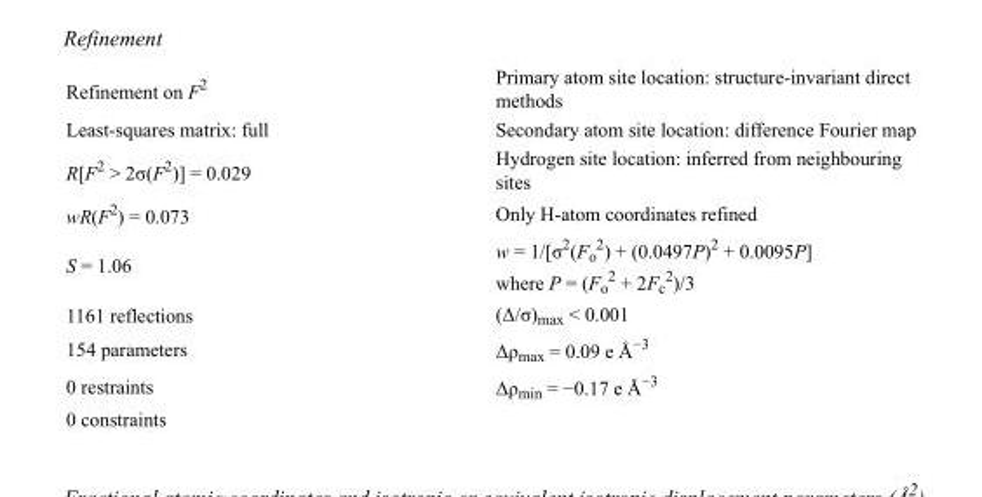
<table><tbody><tr><td>Refinement on F<sup>2</sup></td><td>Primary atom site location: structure-invariant direct methods</td></tr><tr><td>Least-squares matrix: full</td><td>Secondary atom site location: difference Fourier map</td></tr><tr><td>R[F<sup>2</sup> &gt; 2σ(F<sup>2</sup>)] = 0.029</td><td>Hydrogen site location: inferred from neighbouring sites</td></tr><tr><td>wR(F<sup>2</sup>) = 0.073</td><td>Only H-atom coordinates refined</td></tr><tr><td>S = 1.06</td><td>w = 1/[σ<sup>2</sup>(F<sub>o</sub> <sup>2</sup>) + (0.0497P)<sup>2</sup> + 0.0095P] where P = (F<sub>o</sub> <sup>2</sup> + 2F<sub>c</sub> <sup>2</sup>)/3</td></tr><tr><td>1161 reflections</td><td>(Δ/σ)<sub>max</sub> &lt; 0.001</td></tr><tr><td>154 parameters</td><td>Δρ<sub>max</sub> = 0.09 e Å<sup>−3</sup></td></tr><tr><td>0 restraints</td><td>Δρ<sub>min</sub> = −0.17 e Å<sup>−3</sup></td></tr><tr><td>0 constraints</td><td></td></tr></tbody></table>